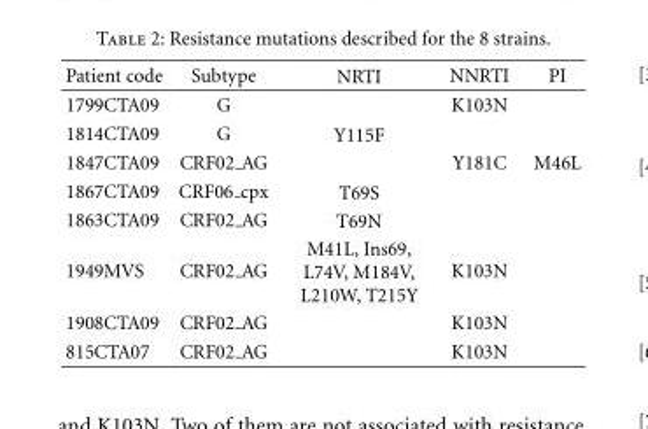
<table><thead><tr><td>Patient code</td><td>Subtype</td><td>NRTI</td><td>NNRTI</td><td>PI</td></tr></thead><tbody><tr><td>1799CTA09</td><td>G</td><td></td><td>K103N</td><td></td></tr><tr><td>1814CTA09</td><td>G</td><td>Y115F</td><td></td><td></td></tr><tr><td>1847CTA09</td><td>CRF02 AG</td><td></td><td>Y181C</td><td>M46L</td></tr><tr><td>1867CTA09</td><td>CRF06 cpx</td><td>T69S</td><td></td><td></td></tr><tr><td>1863CTA09</td><td>CRF02 AG</td><td>T69N</td><td></td><td></td></tr><tr><td>1949MVS</td><td>CRF02 AG</td><td>M41L, Ins69, L74V, M184V, L210W, T215Y</td><td>K103N</td><td></td></tr><tr><td>1908CTA09</td><td>CRF02 AG</td><td></td><td>K103N</td><td></td></tr><tr><td>815CTA07</td><td>CRF02 AG</td><td></td><td>K103N</td><td></td></tr></tbody></table>